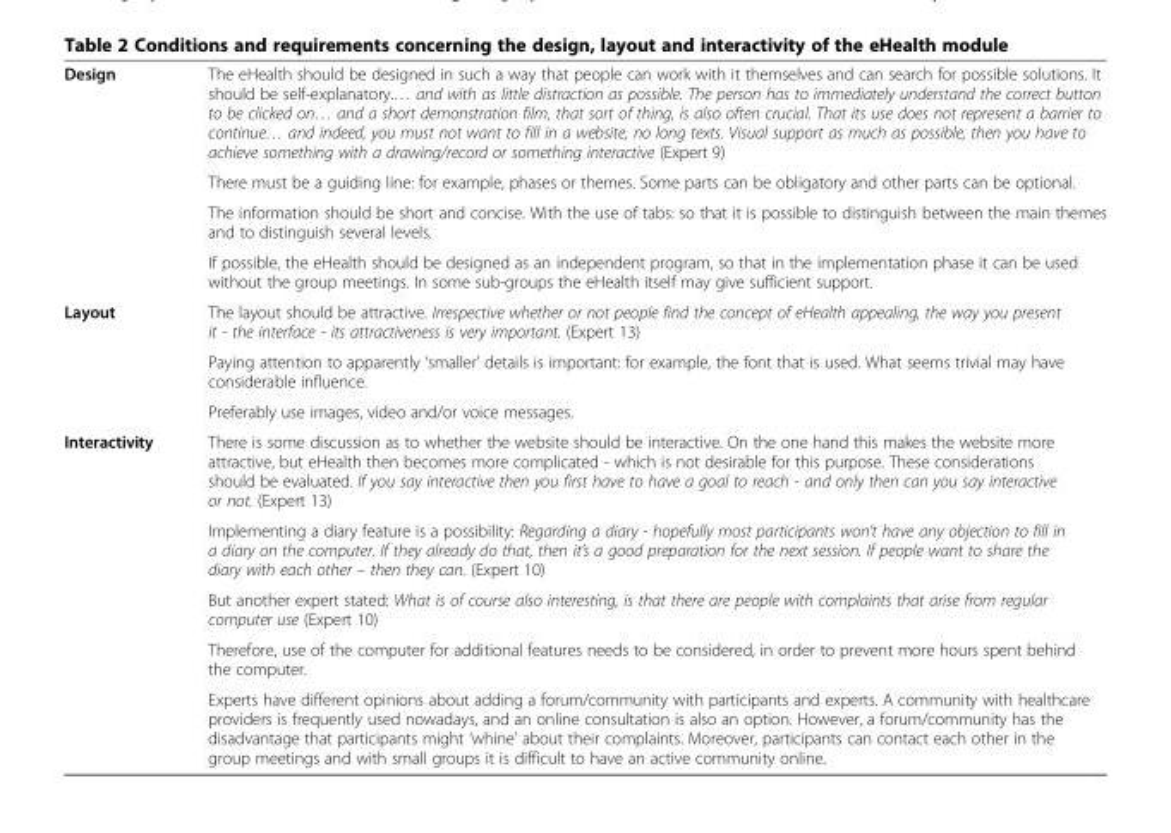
<table><tbody><tr><td rowspan="4">Design</td><td>The eHealth should be designed in such a way that people can work with it themselves and can search for possible solutions. It should be self-explanatory.… and with as little distraction as possible. The person has to immediately understand the correct button to be clicked on… and a short demonstration film, that sort of thing, is also often crucial. That its use does not represent a barrier to continue… and indeed, you must not want to fill in a website, no long texts. Visual support as much as possible, then you have to achieve something with a drawing/record or something interactive (Expert 9)</td></tr><tr><td>There must be a guiding line: for example, phases or themes. Some parts can be obligatory and other parts can be optional.</td></tr><tr><td>The information should be short and concise. With the use of tabs: so that it is possible to distinguish between the main themes and to distinguish several levels.</td></tr><tr><td>If possible, the eHealth should be designed as an independent program, so that in the implementation phase it can be used without the group meetings. In some sub-groups the eHealth itself may give sufficient support.</td></tr><tr><td rowspan="3">Layout</td><td>The layout should be attractive. Irrespective whether or not people find the concept of eHealth appealing, the way you present it - the interface - its attractiveness is very important. (Expert 13)</td></tr><tr><td>Paying attention to apparently ‘smaller’ details is important: for example, the font that is used. What seems trivial may have considerable influence.</td></tr><tr><td>Preferably use images, video and/or voice messages.</td></tr><tr><td rowspan="5">Interactivity</td><td>There is some discussion as to whether the website should be interactive. On the one hand this makes the website more attractive, but eHealth then becomes more complicated - which is not desirable for this purpose. These considerations should be evaluated. If you say interactive then you first have to have a goal to reach - and only then can you say interactive or not. (Expert 13)</td></tr><tr><td>Implementing a diary feature is a possibility: Regarding a diary - hopefully most participants won’t have any objection to fill in a diary on the computer. If they already do that, then it’s a good preparation for the next session. If people want to share the diary with each other – then they can. (Expert 10)</td></tr><tr><td>But another expert stated: What is of course also interesting, is that there are people with complaints that arise from regular computer use (Expert 10)</td></tr><tr><td>Therefore, use of the computer for additional features needs to be considered, in order to prevent more hours spent behind the computer.</td></tr><tr><td>Experts have different opinions about adding a forum/community with participants and experts. A community with healthcare providers is frequently used nowadays, and an online consultation is also an option. However, a forum/community has the disadvantage that participants might ‘whine’ about their complaints. Moreover, participants can contact each other in the group meetings and with small groups it is difficult to have an active community online.</td></tr></tbody></table>